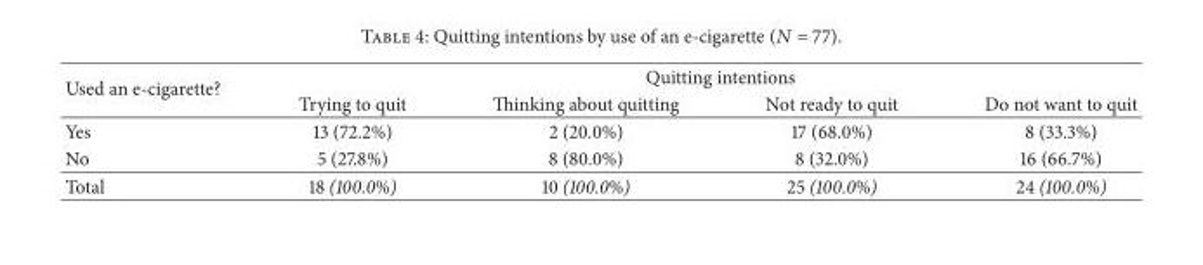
<table><thead><tr><td rowspan="2">Used an e-cigarette?</td><td colspan="4">Quitting intentions</td></tr><tr><td>Trying to quit</td><td>Thinking about quitting</td><td>Not ready to quit</td><td>Do not want to quit</td></tr></thead><tbody><tr><td>Yes</td><td>13 (72.2%)</td><td>2 (20.0%)</td><td>17 (68.0%)</td><td>8 (33.3%)</td></tr><tr><td>No</td><td>5 (27.8%)</td><td>8 (80.0%)</td><td>8 (32.0%)</td><td>16 (66.7%)</td></tr><tr><td>Total</td><td>18 (100.0%)</td><td>10 (100.0%)</td><td>25 (100.0%)</td><td>24 (100.0%)</td></tr></tbody></table>